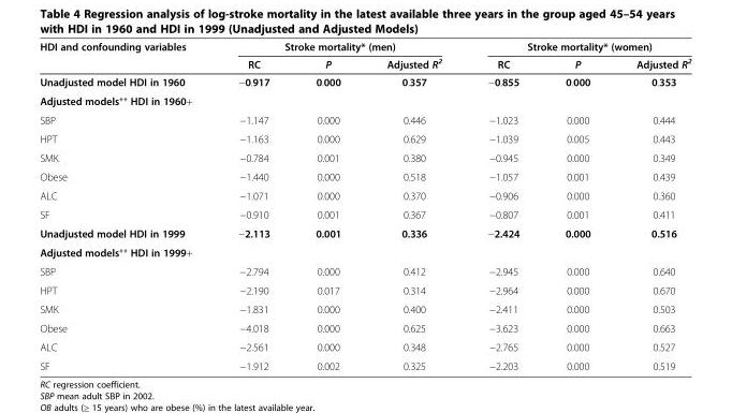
<table><thead><tr><td rowspan="2">HDI and confounding variables</td><td colspan="3">Stroke mortality* (men)</td><td colspan="3">Stroke mortality* (women)</td></tr><tr><td>RC</td><td>P</td><td>Adjusted R<sup>2</sup></td><td>RC</td><td>P</td><td>Adjusted R<sup>2</sup></td></tr></thead><tbody><tr><td>Unadjusted model HDI in 1960</td><td>−0.917</td><td>0.000</td><td>0.357</td><td>−0.855</td><td>0.000</td><td>0.353</td></tr><tr><td colspan="7">Adjusted models** HDI in 1960+</td></tr><tr><td>SBP</td><td>−1.147</td><td>0.000</td><td>0.446</td><td>−1.023</td><td>0.000</td><td>0.444</td></tr><tr><td>HPT</td><td>−1.163</td><td>0.000</td><td>0.629</td><td>−1.039</td><td>0.005</td><td>0.443</td></tr><tr><td>SMK</td><td>−0.784</td><td>0.001</td><td>0.380</td><td>−0.945</td><td>0.000</td><td>0.349</td></tr><tr><td>Obese</td><td>−1.440</td><td>0.000</td><td>0.518</td><td>−1.057</td><td>0.001</td><td>0.439</td></tr><tr><td>ALC</td><td>−1.071</td><td>0.000</td><td>0.370</td><td>−0.906</td><td>0.000</td><td>0.360</td></tr><tr><td>SF</td><td>−0.910</td><td>0.001</td><td>0.367</td><td>−0.807</td><td>0.001</td><td>0.411</td></tr><tr><td>Unadjusted model HDI in 1999</td><td>−2.113</td><td>0.001</td><td>0.336</td><td>−2.424</td><td>0.000</td><td>0.516</td></tr><tr><td colspan="7">Adjusted models** HDI in 1999+</td></tr><tr><td>SBP</td><td>−2.794</td><td>0.000</td><td>0.412</td><td>−2.945</td><td>0.000</td><td>0.640</td></tr><tr><td>HPT</td><td>−2.190</td><td>0.017</td><td>0.314</td><td>−2.964</td><td>0.000</td><td>0.670</td></tr><tr><td>SMK</td><td>−1.831</td><td>0.000</td><td>0.400</td><td>−2.411</td><td>0.000</td><td>0.503</td></tr><tr><td>Obese</td><td>−4.018</td><td>0.000</td><td>0.625</td><td>−3.623</td><td>0.000</td><td>0.663</td></tr><tr><td>ALC</td><td>−2.561</td><td>0.000</td><td>0.348</td><td>−2.765</td><td>0.000</td><td>0.527</td></tr><tr><td>SF</td><td>−1.912</td><td>0.002</td><td>0.325</td><td>−2.203</td><td>0.000</td><td>0.519</td></tr></tbody></table>